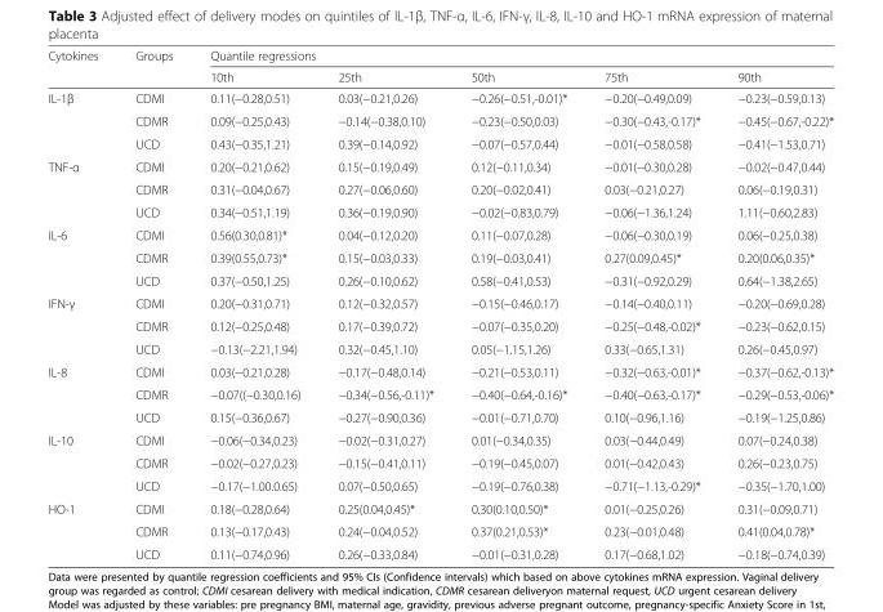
<table><thead><tr><td rowspan="2">Cytokines</td><td rowspan="2">Groups</td><td colspan="5">Quantile regressions</td></tr><tr><td>10th</td><td>25th</td><td>50th</td><td>75th</td><td>90th</td></tr></thead><tbody><tr><td rowspan="3">IL-1β</td><td>CDMI</td><td>0.11(−0.28,0.51)</td><td>0.03(−0.21,0.26)</td><td>−0.26(−0.51,-0.01)*</td><td>−0.20(−0.49,0.09)</td><td>−0.23(−0.59,0.13)</td></tr><tr><td>CDMR</td><td>0.09(−0.25,0.43)</td><td>−0.14(−0.38,0.10)</td><td>−0.23(−0.50,0.03)</td><td>−0.30(−0.43,-0.17)*</td><td>−0.45(−0.67,-0.22)*</td></tr><tr><td>UCD</td><td>0.43(−0.35,1.21)</td><td>0.39(−0.14,0.92)</td><td>−0.07(−0.57,0.44)</td><td>−0.01(−0.58,0.58)</td><td>−0.41(−1.53,0.71)</td></tr><tr><td rowspan="3">TNF-α</td><td>CDMI</td><td>0.20(−0.21,0.62)</td><td>0.15(−0.19,0.49)</td><td>0.12(−0.11,0.34)</td><td>−0.01(−0.30,0.28)</td><td>−0.02(−0.47,0.44)</td></tr><tr><td>CDMR</td><td>0.31(−0.04,0.67)</td><td>0.27(−0.06,0.60)</td><td>0.20(−0.02,0.41)</td><td>0.03(−0.21,0.27)</td><td>0.06(−0.19,0.31)</td></tr><tr><td>UCD</td><td>0.34(−0.51,1.19)</td><td>0.36(−0.19,0.90)</td><td>−0.02(−0.83,0.79)</td><td>−0.06(−1.36,1.24)</td><td>1.11(−0.60,2.83)</td></tr><tr><td rowspan="3">IL-6</td><td>CDMI</td><td>0.56(0.30,0.81)*</td><td>0.04(−0.12,0.20)</td><td>0.11(−0.07,0.28)</td><td>−0.06(−0.30,0.19)</td><td>0.06(−0.25,0.38)</td></tr><tr><td>CDMR</td><td>0.39(0.55,0.73)*</td><td>0.15(−0.03,0.33)</td><td>0.19(−0.03,0.41)</td><td>0.27(0.09,0.45)*</td><td>0.20(0.06,0.35)*</td></tr><tr><td>UCD</td><td>0.37(−0.50,1.25)</td><td>0.26(−0.10,0.62)</td><td>0.58(−0.41,0.53)</td><td>−0.31(−0.92,0.29)</td><td>0.64(−1.38,2.65)</td></tr><tr><td rowspan="3">IFN-γ</td><td>CDMI</td><td>0.20(−0.31,0.71)</td><td>0.12(−0.32,0.57)</td><td>−0.15(−0.46,0.17)</td><td>−0.14(−0.40,0.11)</td><td>−0.20(−0.69,0.28)</td></tr><tr><td>CDMR</td><td>0.12(−0.25,0.48)</td><td>0.17(−0.39,0.72)</td><td>−0.07(−0.35,0.20)</td><td>−0.25(−0.48,-0.02)*</td><td>−0.23(−0.62,0.15)</td></tr><tr><td>UCD</td><td>−0.13(−2.21,1.94)</td><td>0.32(−0.45,1.10)</td><td>0.05(−1.15,1.26)</td><td>0.33(−0.65,1.31)</td><td>0.26(−0.45,0.97)</td></tr><tr><td rowspan="3">IL-8</td><td>CDMI</td><td>0.03(−0.21,0.28)</td><td>−0.17(−0.48,0.14)</td><td>−0.21(−0.53,0.11)</td><td>−0.32(−0.63,-0.01)*</td><td>−0.37(−0.62,-0.13)*</td></tr><tr><td>CDMR</td><td>−0.07((−0.30,0.16)</td><td>−0.34(−0.56,-0.11)*</td><td>−0.40(−0.64,-0.16)*</td><td>−0.40(−0.63,-0.17)*</td><td>−0.29(−0.53,-0.06)*</td></tr><tr><td>UCD</td><td>0.15(−0.36,0.67)</td><td>−0.27(−0.90,0.36)</td><td>−0.01(−0.71,0.70)</td><td>0.10(−0.96,1.16)</td><td>−0.19(−1.25,0.86)</td></tr><tr><td rowspan="3">IL-10</td><td>CDMI</td><td>−0.06(−0.34,0.23)</td><td>−0.02(−0.31,0.27)</td><td>0.01(−0.34,0.35)</td><td>0.03(−0.44,0.49)</td><td>0.07(−0.24,0.38)</td></tr><tr><td>CDMR</td><td>−0.02(−0.27,0.23)</td><td>−0.15(−0.41,0.11)</td><td>−0.19(−0.45,0.07)</td><td>0.01(−0.42,0.43)</td><td>0.26(−0.23,0.75)</td></tr><tr><td>UCD</td><td>−0.17(−1.00.0.65)</td><td>0.07(−0.50,0.65)</td><td>−0.19(−0.76,0.38)</td><td>−0.71(−1.13,-0.29)*</td><td>−0.35(−1.70,1.00)</td></tr><tr><td rowspan="3">HO-1</td><td>CDMI</td><td>0.18(−0.28,0.64)</td><td>0.25(0.04,0.45)*</td><td>0.30(0.10,0.50)*</td><td>0.01(−0.25,0.26)</td><td>0.31(−0.09,0.71)</td></tr><tr><td>CDMR</td><td>0.13(−0.17,0.43)</td><td>0.24(−0.04,0.52)</td><td>0.37(0.21,0.53)*</td><td>0.23(−0.01,0.48)</td><td>0.41(0.04,0.78)*</td></tr><tr><td>UCD</td><td>0.11(−0.74,0.96)</td><td>0.26(−0.33,0.84)</td><td>−0.01(−0.31,0.28)</td><td>0.17(−0.68,1.02)</td><td>−0.18(−0.74,0.39)</td></tr></tbody></table>